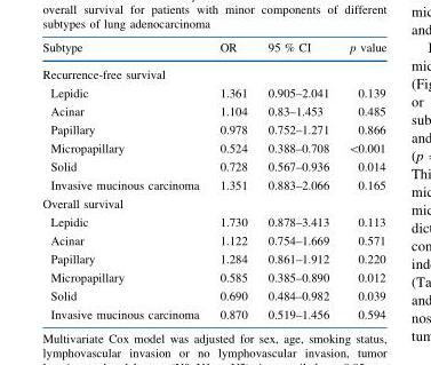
<table><thead><tr><td>Subtype</td><td>OR</td><td>95 % CI</td><td>p value</td></tr></thead><tbody><tr><td colspan="4">Recurrence-free survival</td></tr><tr><td>Lepidic</td><td>1.361</td><td>0.905–2.041</td><td>0.139</td></tr><tr><td>Acinar</td><td>1.104</td><td>0.83–1.453</td><td>0.485</td></tr><tr><td>Papillary</td><td>0.978</td><td>0.752–1.271</td><td>0.866</td></tr><tr><td>Micropapillary</td><td>0.524</td><td>0.388–0.708</td><td>&lt;0.001</td></tr><tr><td>Solid</td><td>0.728</td><td>0.567–0.936</td><td>0.014</td></tr><tr><td>Invasive mucinous carcinoma</td><td>1.351</td><td>0.883–2.066</td><td>0.165</td></tr><tr><td colspan="4">Overall survival</td></tr><tr><td>Lepidic</td><td>1.730</td><td>0.878–3.413</td><td>0.113</td></tr><tr><td>Acinar</td><td>1.122</td><td>0.754–1.669</td><td>0.571</td></tr><tr><td>Papillary</td><td>1.284</td><td>0.861–1.912</td><td>0.220</td></tr><tr><td>Micropapillary</td><td>0.585</td><td>0.385–0.890</td><td>0.012</td></tr><tr><td>Solid</td><td>0.690</td><td>0.484–0.982</td><td>0.039</td></tr><tr><td>Invasive mucinous carcinoma</td><td>0.870</td><td>0.519–1.456</td><td>0.594</td></tr></tbody></table>